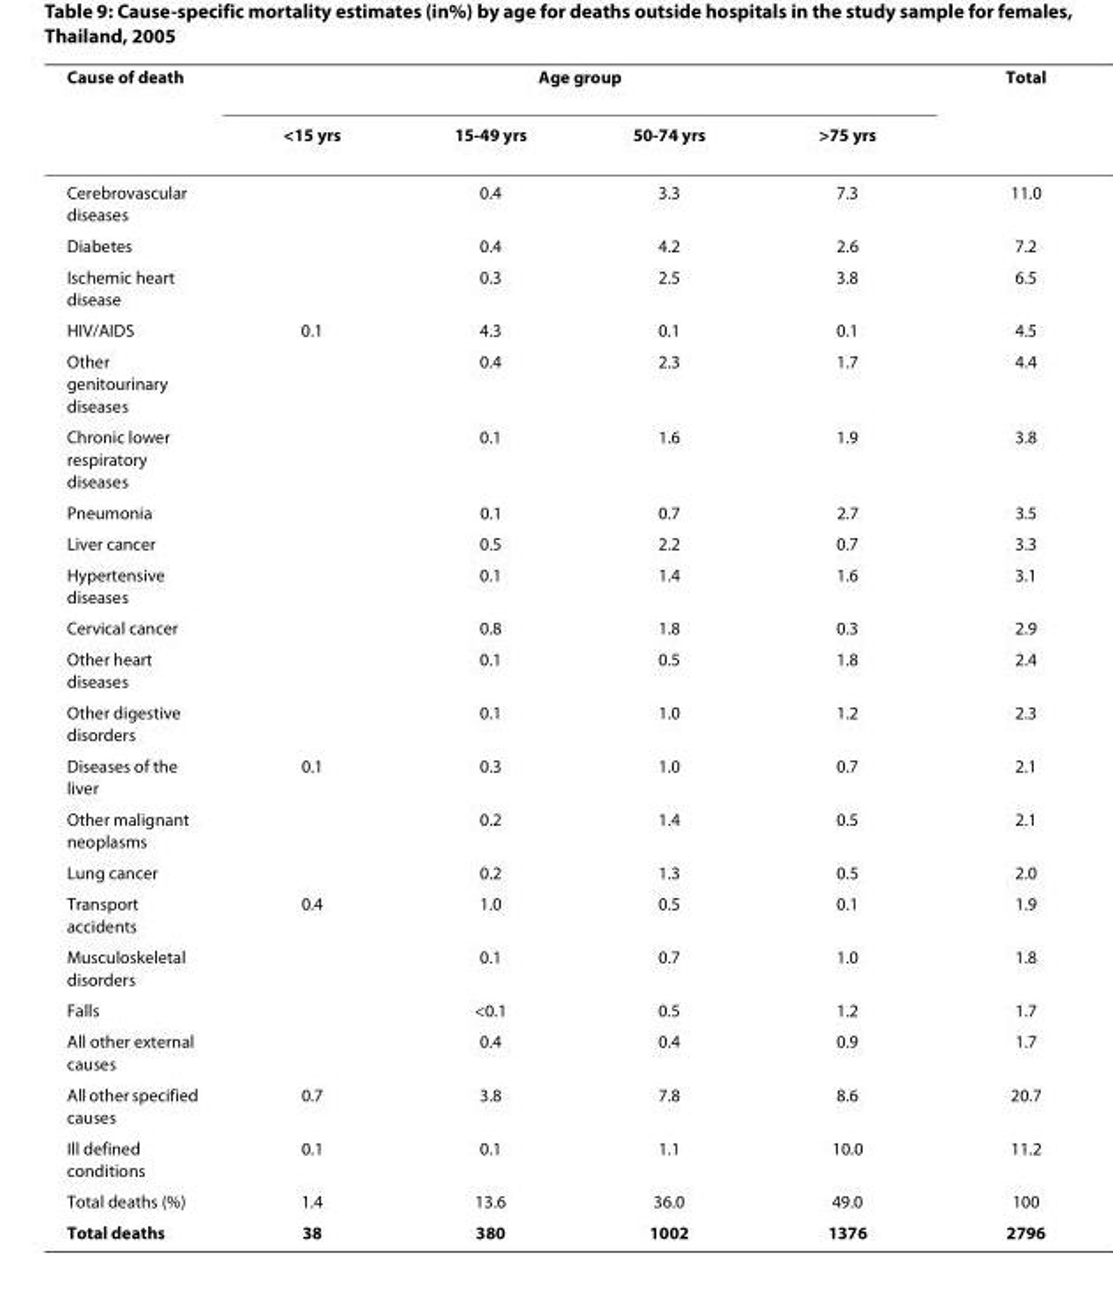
<table><thead><tr><td rowspan="2">Cause of death</td><td colspan="4">Age group</td><td rowspan="2">Total</td></tr><tr><td>&lt;15 yrs</td><td>15-49 yrs</td><td>50-74 yrs</td><td>&gt;75 yrs</td></tr></thead><tbody><tr><td>Cerebrovascular diseases</td><td></td><td>0.4</td><td>3.3</td><td>7.3</td><td>11.0</td></tr><tr><td>Diabetes</td><td></td><td>0.4</td><td>4.2</td><td>2.6</td><td>7.2</td></tr><tr><td>Ischemic heart disease</td><td></td><td>0.3</td><td>2.5</td><td>3.8</td><td>6.5</td></tr><tr><td>HIV/AIDS</td><td>0.1</td><td>4.3</td><td>0.1</td><td>0.1</td><td>4.5</td></tr><tr><td>Other genitourinary diseases</td><td></td><td>0.4</td><td>2.3</td><td>1.7</td><td>4.4</td></tr><tr><td>Chronic lower respiratory diseases</td><td></td><td>0.1</td><td>1.6</td><td>1.9</td><td>3.8</td></tr><tr><td>Pneumonia</td><td></td><td>0.1</td><td>0.7</td><td>2.7</td><td>3.5</td></tr><tr><td>Liver cancer</td><td></td><td>0.5</td><td>2.2</td><td>0.7</td><td>3.3</td></tr><tr><td>Hypertensive diseases</td><td></td><td>0.1</td><td>1.4</td><td>1.6</td><td>3.1</td></tr><tr><td>Cervical cancer</td><td></td><td>0.8</td><td>1.8</td><td>0.3</td><td>2.9</td></tr><tr><td>Other heart diseases</td><td></td><td>0.1</td><td>0.5</td><td>1.8</td><td>2.4</td></tr><tr><td>Other digestive disorders</td><td></td><td>0.1</td><td>1.0</td><td>1.2</td><td>2.3</td></tr><tr><td>Diseases of the liver</td><td>0.1</td><td>0.3</td><td>1.0</td><td>0.7</td><td>2.1</td></tr><tr><td>Other malignant neoplasms</td><td></td><td>0.2</td><td>1.4</td><td>0.5</td><td>2.1</td></tr><tr><td>Lung cancer</td><td></td><td>0.2</td><td>1.3</td><td>0.5</td><td>2.0</td></tr><tr><td>Transport accidents</td><td>0.4</td><td>1.0</td><td>0.5</td><td>0.1</td><td>1.9</td></tr><tr><td>Musculoskeletal disorders</td><td></td><td>0.1</td><td>0.7</td><td>1.0</td><td>1.8</td></tr><tr><td>Falls</td><td></td><td>&lt;0.1</td><td>0.5</td><td>1.2</td><td>1.7</td></tr><tr><td>All other external causes</td><td></td><td>0.4</td><td>0.4</td><td>0.9</td><td>1.7</td></tr><tr><td>All other specified causes</td><td>0.7</td><td>3.8</td><td>7.8</td><td>8.6</td><td>20.7</td></tr><tr><td>Ill defined conditions</td><td>0.1</td><td>0.1</td><td>1.1</td><td>10.0</td><td>11.2</td></tr><tr><td>Total deaths (%)</td><td>1.4</td><td>13.6</td><td>36.0</td><td>49.0</td><td>100</td></tr><tr><td>Total deaths</td><td>38</td><td>380</td><td>1002</td><td>1376</td><td>2796</td></tr></tbody></table>